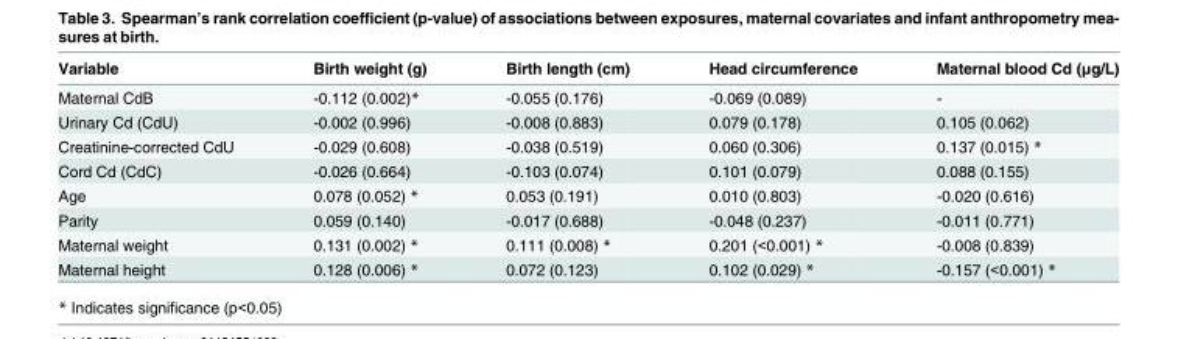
<table><thead><tr><td>Variable</td><td>Birth weight (g)</td><td>Birth length (cm)</td><td>Head circumference</td><td>Maternal blood Cd (μg/L)</td></tr></thead><tbody><tr><td>Maternal CdB</td><td>-0.112 (0.002)*</td><td>-0.055 (0.176)</td><td>-0.069 (0.089)</td><td>-</td></tr><tr><td>Urinary Cd (CdU)</td><td>-0.002 (0.996)</td><td>-0.008 (0.883)</td><td>0.079 (0.178)</td><td>0.105 (0.062)</td></tr><tr><td>Creatinine-corrected CdU</td><td>-0.029 (0.608)</td><td>-0.038 (0.519)</td><td>0.060 (0.306)</td><td>0.137 (0.015) *</td></tr><tr><td>Cord Cd (CdC)</td><td>-0.026 (0.664)</td><td>-0.103 (0.074)</td><td>0.101 (0.079)</td><td>0.088 (0.155)</td></tr><tr><td>Age</td><td>0.078 (0.052) *</td><td>0.053 (0.191)</td><td>0.010 (0.803)</td><td>-0.020 (0.616)</td></tr><tr><td>Parity</td><td>0.059 (0.140)</td><td>-0.017 (0.688)</td><td>-0.048 (0.237)</td><td>-0.011 (0.771)</td></tr><tr><td>Maternal weight</td><td>0.131 (0.002) *</td><td>0.111 (0.008) *</td><td>0.201 (&lt;0.001) *</td><td>-0.008 (0.839)</td></tr><tr><td>Maternal height</td><td>0.128 (0.006) *</td><td>0.072 (0.123)</td><td>0.102 (0.029) *</td><td>-0.157 (&lt;0.001) *</td></tr></tbody></table>